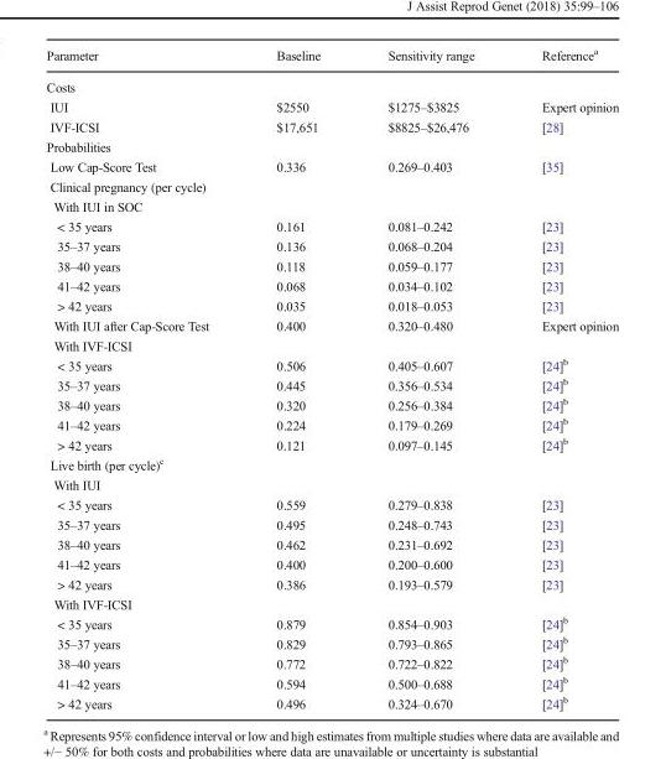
<table><thead><tr><td>Parameter</td><td>Baseline</td><td>Sensitivity range</td><td>Reference<sup>a</sup></td></tr></thead><tbody><tr><td colspan="4">Costs</td></tr><tr><td>IUI</td><td>$2550</td><td>$1275–$3825</td><td>Expert opinion</td></tr><tr><td>IVF-ICSI</td><td>$17,651</td><td>$8825–$26,476</td><td>[28]</td></tr><tr><td colspan="4">Probabilities</td></tr><tr><td>Low Cap-Score Test</td><td>0.336</td><td>0.269–0.403</td><td>[35]</td></tr><tr><td colspan="4">Clinical pregnancy (per cycle)</td></tr><tr><td colspan="4">With IUI in SOC</td></tr><tr><td>&lt; 35 years</td><td>0.161</td><td>0.081–0.242</td><td>[23]</td></tr><tr><td>35–37 years</td><td>0.136</td><td>0.068–0.204</td><td>[23]</td></tr><tr><td>38–40 years</td><td>0.118</td><td>0.059–0.177</td><td>[23]</td></tr><tr><td>41–42 years</td><td>0.068</td><td>0.034–0.102</td><td>[23]</td></tr><tr><td>&gt; 42 years</td><td>0.035</td><td>0.018–0.053</td><td>[23]</td></tr><tr><td>With IUI after Cap-Score Test</td><td>0.400</td><td>0.320–0.480</td><td>Expert opinion</td></tr><tr><td colspan="4">With IVF-ICSI</td></tr><tr><td>&lt; 35 years</td><td>0.506</td><td>0.405–0.607</td><td>[24]<sup>b</sup></td></tr><tr><td>35–37 years</td><td>0.445</td><td>0.356–0.534</td><td>[24]<sup>b</sup></td></tr><tr><td>38–40 years</td><td>0.320</td><td>0.256–0.384</td><td>[24]<sup>b</sup></td></tr><tr><td>41–42 years</td><td>0.224</td><td>0.179–0.269</td><td>[24]<sup>b</sup></td></tr><tr><td>&gt; 42 years</td><td>0.121</td><td>0.097–0.145</td><td>[24]<sup>b</sup></td></tr><tr><td colspan="4">Live birth (per cycle)<sup>c</sup></td></tr><tr><td colspan="4">With IUI</td></tr><tr><td>&lt; 35 years</td><td>0.559</td><td>0.279–0.838</td><td>[23]</td></tr><tr><td>35–37 years</td><td>0.495</td><td>0.248–0.743</td><td>[23]</td></tr><tr><td>38–40 years</td><td>0.462</td><td>0.231–0.692</td><td>[23]</td></tr><tr><td>41–42 years</td><td>0.400</td><td>0.200–0.600</td><td>[23]</td></tr><tr><td>&gt; 42 years</td><td>0.386</td><td>0.193–0.579</td><td>[23]</td></tr><tr><td colspan="4">With IVF-ICSI</td></tr><tr><td>&lt; 35 years</td><td>0.879</td><td>0.854–0.903</td><td>[24]<sup>b</sup></td></tr><tr><td>35–37 years</td><td>0.829</td><td>0.793–0.865</td><td>[24]<sup>b</sup></td></tr><tr><td>38–40 years</td><td>0.772</td><td>0.722–0.822</td><td>[24]<sup>b</sup></td></tr><tr><td>41–42 years</td><td>0.594</td><td>0.500–0.688</td><td>[24]<sup>b</sup></td></tr><tr><td>&gt; 42 years</td><td>0.496</td><td>0.324–0.670</td><td>[24]<sup>b</sup></td></tr></tbody></table>